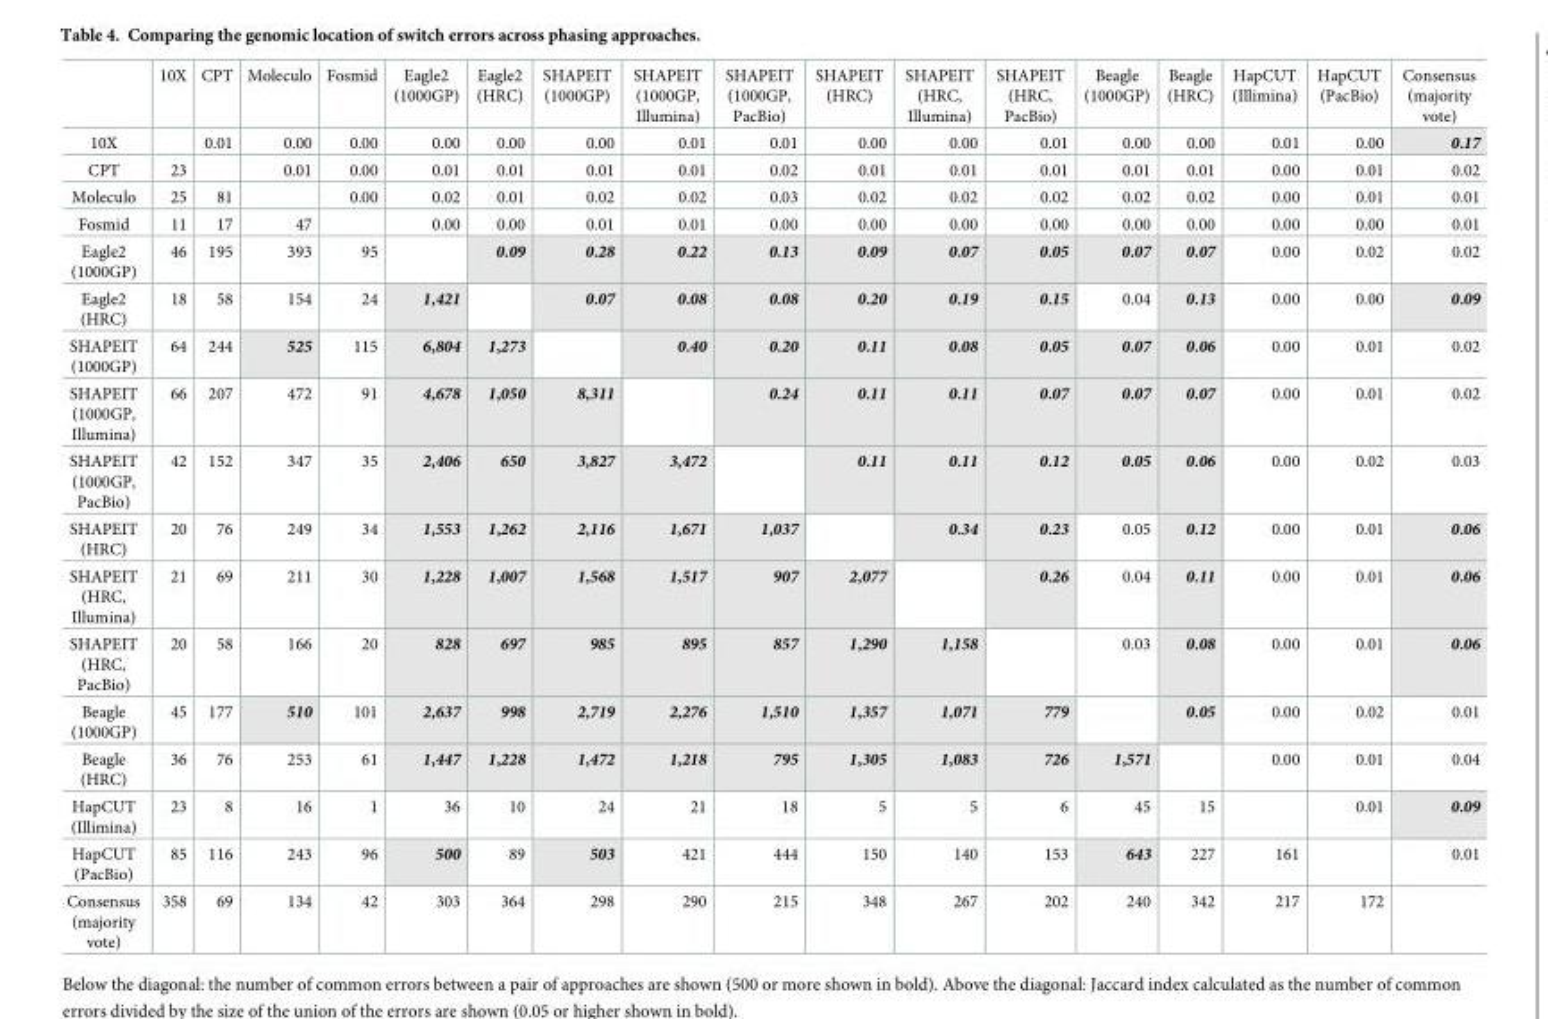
<table><thead><tr><td></td><td>10X</td><td>CPT</td><td>Moleculo</td><td>Fosmid</td><td>Eagle2 (1000GP)</td><td>Eagle2 (HRC)</td><td>SHAPEIT (1000GP)</td><td>SHAPEIT (1000GP, Illumina)</td><td>SHAPEIT (1000GP, PacBio)</td><td>SHAPEIT (HRC)</td><td>SHAPEIT (HRC, Illumina)</td><td>SHAPEIT (HRC, PacBio)</td><td>Beagle (1000GP)</td><td>Beagle (HRC)</td><td>HapCUT (Illimina)</td><td>HapCUT (PacBio)</td><td>Consensus (majority vote)</td></tr></thead><tbody><tr><td>10X</td><td></td><td>0.01</td><td>0.00</td><td>0.00</td><td>0.00</td><td>0.00</td><td>0.00</td><td>0.01</td><td>0.01</td><td>0.00</td><td>0.00</td><td>0.01</td><td>0.00</td><td>0.00</td><td>0.01</td><td>0.00</td><td>0.17</td></tr><tr><td>CPT</td><td>23</td><td></td><td>0.01</td><td>0.00</td><td>0.01</td><td>0.01</td><td>0.01</td><td>0.01</td><td>0.02</td><td>0.01</td><td>0.01</td><td>0.01</td><td>0.01</td><td>0.01</td><td>0.00</td><td>0.01</td><td>0.02</td></tr><tr><td>Moleculo</td><td>25</td><td>81</td><td></td><td>0.00</td><td>0.02</td><td>0.01</td><td>0.02</td><td>0.02</td><td>0.03</td><td>0.02</td><td>0.02</td><td>0.02</td><td>0.02</td><td>0.02</td><td>0.00</td><td>0.01</td><td>0.01</td></tr><tr><td>Fosmid</td><td>11</td><td>17</td><td>47</td><td></td><td>0.00</td><td>0.00</td><td>0.01</td><td>0.01</td><td>0.00</td><td>0.00</td><td>0.00</td><td>0.00</td><td>0.00</td><td>0.00</td><td>0.00</td><td>0.00</td><td>0.01</td></tr><tr><td>Eagle2 (1000GP)</td><td>46</td><td>195</td><td>393</td><td>95</td><td></td><td>0.09</td><td>0.28</td><td>0.22</td><td>0.13</td><td>0.09</td><td>0.07</td><td>0.05</td><td>0.07</td><td>0.07</td><td>0.00</td><td>0.02</td><td>0.02</td></tr><tr><td>Eagle2 (HRC)</td><td>18</td><td>58</td><td>154</td><td>24</td><td>1,421</td><td></td><td>0.07</td><td>0.08</td><td>0.08</td><td>0.20</td><td>0.19</td><td>0.15</td><td>0.04</td><td>0.13</td><td>0.00</td><td>0.00</td><td>0.09</td></tr><tr><td>SHAPEIT (1000GP)</td><td>64</td><td>244</td><td>525</td><td>115</td><td>6,804</td><td>1,273</td><td></td><td>0.40</td><td>0.20</td><td>0.11</td><td>0.08</td><td>0.05</td><td>0.07</td><td>0.06</td><td>0.00</td><td>0.01</td><td>0.02</td></tr><tr><td>SHAPEIT (1000GP, Illumina)</td><td>66</td><td>207</td><td>472</td><td>91</td><td>4,678</td><td>1,050</td><td>8,311</td><td></td><td>0.24</td><td>0.11</td><td>0.11</td><td>0.07</td><td>0.07</td><td>0.07</td><td>0.00</td><td>0.01</td><td>0.02</td></tr><tr><td>SHAPEIT (1000GP, PacBio)</td><td>42</td><td>152</td><td>347</td><td>35</td><td>2,406</td><td>650</td><td>3,827</td><td>3,472</td><td></td><td>0.11</td><td>0.11</td><td>0.12</td><td>0.05</td><td>0.06</td><td>0.00</td><td>0.02</td><td>0.03</td></tr><tr><td>SHAPEIT (HRC)</td><td>20</td><td>76</td><td>249</td><td>34</td><td>1,553</td><td>1,262</td><td>2,116</td><td>1,671</td><td>1,037</td><td></td><td>0.34</td><td>0.23</td><td>0.05</td><td>0.12</td><td>0.00</td><td>0.01</td><td>0.06</td></tr><tr><td>SHAPEIT (HRC, Illumina)</td><td>21</td><td>69</td><td>211</td><td>30</td><td>1,228</td><td>1,007</td><td>1,568</td><td>1,517</td><td>907</td><td>2,077</td><td></td><td>0.26</td><td>0.04</td><td>0.11</td><td>0.00</td><td>0.01</td><td>0.06</td></tr><tr><td>SHAPEIT (HRC, PacBio)</td><td>20</td><td>58</td><td>166</td><td>20</td><td>828</td><td>697</td><td>985</td><td>895</td><td>857</td><td>1,290</td><td>1,158</td><td></td><td>0.03</td><td>0.08</td><td>0.00</td><td>0.01</td><td>0.06</td></tr><tr><td>Beagle (1000GP)</td><td>45</td><td>177</td><td>510</td><td>101</td><td>2,637</td><td>998</td><td>2,719</td><td>2,276</td><td>1,510</td><td>1,357</td><td>1,071</td><td>779</td><td></td><td>0.05</td><td>0.00</td><td>0.02</td><td>0.01</td></tr><tr><td>Beagle (HRC)</td><td>36</td><td>76</td><td>253</td><td>61</td><td>1,447</td><td>1,228</td><td>1,472</td><td>1,218</td><td>795</td><td>1,305</td><td>1,083</td><td>726</td><td>1,571</td><td></td><td>0.00</td><td>0.01</td><td>0.04</td></tr><tr><td>HapCUT (Illimina)</td><td>23</td><td>8</td><td>16</td><td>1</td><td>36</td><td>10</td><td>24</td><td>21</td><td>18</td><td>5</td><td>5</td><td>6</td><td>45</td><td>15</td><td></td><td>0.01</td><td>0.09</td></tr><tr><td>HapCUT (PacBio)</td><td>85</td><td>116</td><td>243</td><td>96</td><td>500</td><td>89</td><td>503</td><td>421</td><td>444</td><td>150</td><td>140</td><td>153</td><td>643</td><td>227</td><td>161</td><td></td><td>0.01</td></tr><tr><td>Consensus (majority vote)</td><td>358</td><td>69</td><td>134</td><td>42</td><td>303</td><td>364</td><td>298</td><td>290</td><td>215</td><td>348</td><td>267</td><td>202</td><td>240</td><td>342</td><td>217</td><td>172</td><td></td></tr></tbody></table>